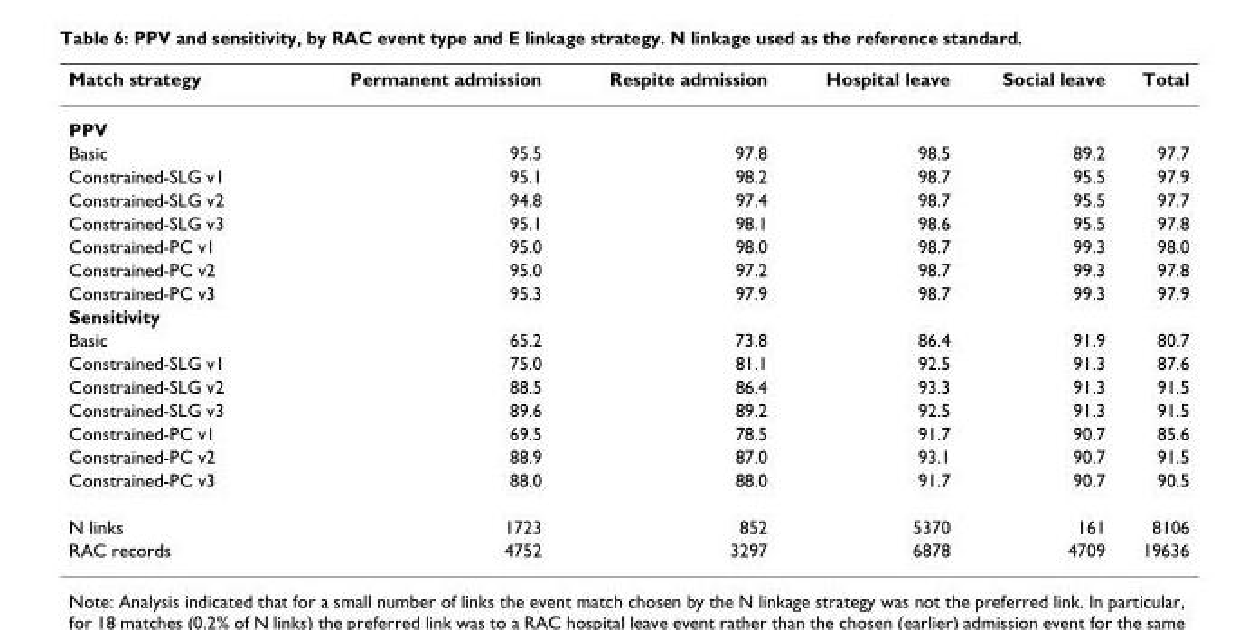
<table><thead><tr><td>Match strategy</td><td>Permanent admission</td><td>Respite admission</td><td>Hospital leave</td><td>Social leave</td><td>Total</td></tr></thead><tbody><tr><td colspan="6">PPV</td></tr><tr><td>Basic</td><td>95.5</td><td>97.8</td><td>98.5</td><td>89.2</td><td>97.7</td></tr><tr><td>Constrained-SLG v1</td><td>95.1</td><td>98.2</td><td>98.7</td><td>95.5</td><td>97.9</td></tr><tr><td>Constrained-SLG v2</td><td>94.8</td><td>97.4</td><td>98.7</td><td>95.5</td><td>97.7</td></tr><tr><td>Constrained-SLG v3</td><td>95.1</td><td>98.1</td><td>98.6</td><td>95.5</td><td>97.8</td></tr><tr><td>Constrained-PC v1</td><td>95.0</td><td>98.0</td><td>98.7</td><td>99.3</td><td>98.0</td></tr><tr><td>Constrained-PC v2</td><td>95.0</td><td>97.2</td><td>98.7</td><td>99.3</td><td>97.8</td></tr><tr><td>Constrained-PC v3</td><td>95.3</td><td>97.9</td><td>98.7</td><td>99.3</td><td>97.9</td></tr><tr><td colspan="6">Sensitivity</td></tr><tr><td>Basic</td><td>65.2</td><td>73.8</td><td>86.4</td><td>91.9</td><td>80.7</td></tr><tr><td>Constrained-SLG v1</td><td>75.0</td><td>81.1</td><td>92.5</td><td>91.3</td><td>87.6</td></tr><tr><td>Constrained-SLG v2</td><td>88.5</td><td>86.4</td><td>93.3</td><td>91.3</td><td>91.5</td></tr><tr><td>Constrained-SLG v3</td><td>89.6</td><td>89.2</td><td>92.5</td><td>91.3</td><td>91.5</td></tr><tr><td>Constrained-PC v1</td><td>69.5</td><td>78.5</td><td>91.7</td><td>90.7</td><td>85.6</td></tr><tr><td>Constrained-PC v2</td><td>88.9</td><td>87.0</td><td>93.1</td><td>90.7</td><td>91.5</td></tr><tr><td>Constrained-PC v3</td><td>88.0</td><td>88.0</td><td>91.7</td><td>90.7</td><td>90.5</td></tr><tr><td>N links</td><td>1723</td><td>852</td><td>5370</td><td>161</td><td>8106</td></tr><tr><td>RAC records</td><td>4752</td><td>3297</td><td>6878</td><td>4709</td><td>19636</td></tr></tbody></table>